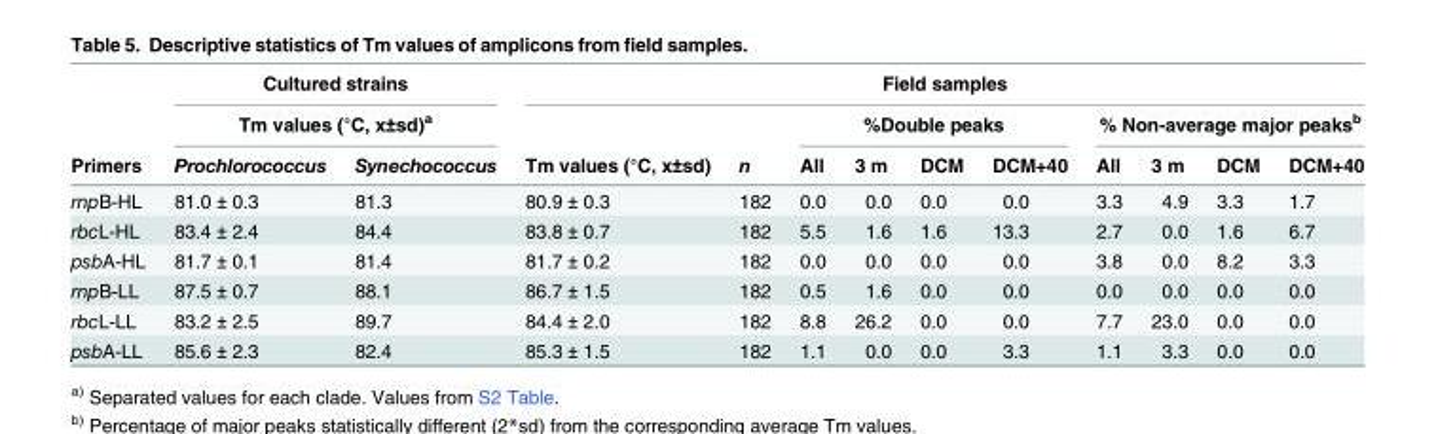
<table><thead><tr><td rowspan="3">Primers</td><td rowspan="2" colspan="2">Cultured strains Tm values (°C, x±sd)<sup>a</sup></td><td colspan="10">Field samples</td></tr><tr><td rowspan="2">Tm values (°C, x±sd)</td><td rowspan="2">n</td><td colspan="4">%Double peaks</td><td colspan="4">% Non-average major peaks<sup>b</sup></td></tr><tr><td>Prochlorococcus</td><td>Synechococcus</td><td>All</td><td>3 m</td><td>DCM</td><td>DCM+40</td><td>All</td><td>3 m</td><td>DCM</td><td>DCM+40</td></tr></thead><tbody><tr><td>rnpB-HL</td><td>81.0 ± 0.3</td><td>81.3</td><td>80.9 ± 0.3</td><td>182</td><td>0.0</td><td>0.0</td><td>0.0</td><td>0.0</td><td>3.3</td><td>4.9</td><td>3.3</td><td>1.7</td></tr><tr><td>rbcL-HL</td><td>83.4 ± 2.4</td><td>84.4</td><td>83.8 ± 0.7</td><td>182</td><td>5.5</td><td>1.6</td><td>1.6</td><td>13.3</td><td>2.7</td><td>0.0</td><td>1.6</td><td>6.7</td></tr><tr><td>psbA-HL</td><td>81.7 ± 0.1</td><td>81.4</td><td>81.7 ± 0.2</td><td>182</td><td>0.0</td><td>0.0</td><td>0.0</td><td>0.0</td><td>3.8</td><td>0.0</td><td>8.2</td><td>3.3</td></tr><tr><td>rnpB-LL</td><td>87.5 ± 0.7</td><td>88.1</td><td>86.7 ± 1.5</td><td>182</td><td>0.5</td><td>1.6</td><td>0.0</td><td>0.0</td><td>0.0</td><td>0.0</td><td>0.0</td><td>0.0</td></tr><tr><td>rbcL-LL</td><td>83.2 ± 2.5</td><td>89.7</td><td>84.4 ± 2.0</td><td>182</td><td>8.8</td><td>26.2</td><td>0.0</td><td>0.0</td><td>7.7</td><td>23.0</td><td>0.0</td><td>0.0</td></tr><tr><td>psbA-LL</td><td>85.6 ± 2.3</td><td>82.4</td><td>85.3 ± 1.5</td><td>182</td><td>1.1</td><td>0.0</td><td>0.0</td><td>3.3</td><td>1.1</td><td>3.3</td><td>0.0</td><td>0.0</td></tr></tbody></table>